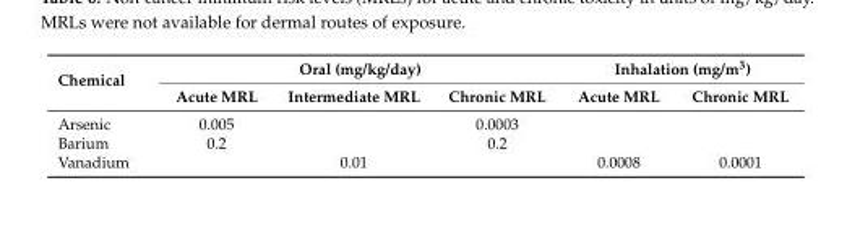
<table><thead><tr><td rowspan="2">Chemical</td><td colspan="3">Oral (mg/kg/day)</td><td colspan="2">Inhalation (mg/m<sup>3</sup>)</td></tr><tr><td>Acute MRL</td><td>Intermediate MRL</td><td>Chronic MRL</td><td>Acute MRL</td><td>Chronic MRL</td></tr></thead><tbody><tr><td>Arsenic</td><td>0.005</td><td></td><td>0.0003</td><td></td><td></td></tr><tr><td>Barium</td><td>0.2</td><td></td><td>0.2</td><td></td><td></td></tr><tr><td>Vanadium</td><td></td><td>0.01</td><td></td><td>0.0008</td><td>0.0001</td></tr></tbody></table>